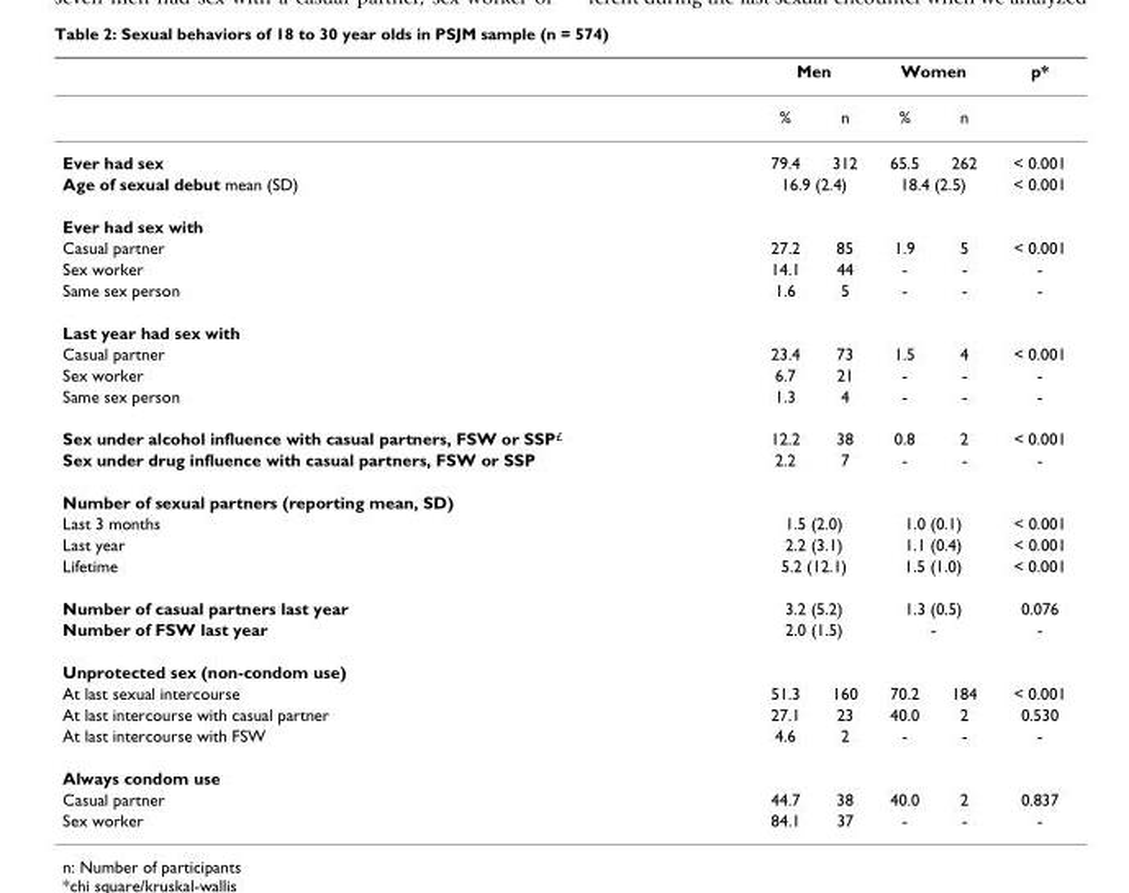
<table><thead><tr><td rowspan="2"></td><td colspan="2">Men</td><td colspan="2">Women</td><td rowspan="2">p*</td></tr><tr><td>%</td><td>n</td><td>%</td><td>n</td></tr></thead><tbody><tr><td>Ever had sex</td><td>79.4</td><td>312</td><td>65.5</td><td>262</td><td>&lt; 0.001</td></tr><tr><td>Age of sexual debut mean (SD)</td><td colspan="2">16.9 (2.4)</td><td colspan="2">18.4 (2.5)</td><td>&lt; 0.001</td></tr><tr><td colspan="6">Ever had sex with</td></tr><tr><td>Casual partner</td><td>27.2</td><td>85</td><td>1.9</td><td>5</td><td>&lt; 0.001</td></tr><tr><td>Sex worker</td><td>14.1</td><td>44</td><td>-</td><td>-</td><td>-</td></tr><tr><td>Same sex person</td><td>1.6</td><td>5</td><td>-</td><td>-</td><td>-</td></tr><tr><td colspan="6">Last year had sex with</td></tr><tr><td>Casual partner</td><td>23.4</td><td>73</td><td>1.5</td><td>4</td><td>&lt; 0.001</td></tr><tr><td>Sex worker</td><td>6.7</td><td>21</td><td>-</td><td>-</td><td>-</td></tr><tr><td>Same sex person</td><td>1.3</td><td>4</td><td>-</td><td>-</td><td>-</td></tr><tr><td>Sex under alcohol influence with casual partners, FSW or SSP<sup>£</sup></td><td>12.2</td><td>38</td><td>0.8</td><td>2</td><td>&lt; 0.001</td></tr><tr><td>Sex under drug influence with casual partners, FSW or SSP</td><td>2.2</td><td>7</td><td>-</td><td>-</td><td>-</td></tr><tr><td colspan="6">Number of sexual partners (reporting mean, SD)</td></tr><tr><td>Last 3 months</td><td colspan="2">1.5 (2.0)</td><td colspan="2">1.0 (0.1)</td><td>&lt; 0.001</td></tr><tr><td>Last year</td><td colspan="2">2.2 (3.1)</td><td colspan="2">1.1 (0.4)</td><td>&lt; 0.001</td></tr><tr><td>Lifetime</td><td colspan="2">5.2 (12.1)</td><td colspan="2">1.5 (1.0)</td><td>&lt; 0.001</td></tr><tr><td>Number of casual partners last year</td><td colspan="2">3.2 (5.2)</td><td colspan="2">1.3 (0.5)</td><td>0.076</td></tr><tr><td>Number of FSW last year</td><td colspan="2">2.0 (1.5)</td><td colspan="2">-</td><td>-</td></tr><tr><td colspan="6">Unprotected sex (non-condom use)</td></tr><tr><td>At last sexual intercourse</td><td>51.3</td><td>160</td><td>70.2</td><td>184</td><td>&lt; 0.001</td></tr><tr><td>At last intercourse with casual partner</td><td>27.1</td><td>23</td><td>40.0</td><td>2</td><td>0.530</td></tr><tr><td>At last intercourse with FSW</td><td>4.6</td><td>2</td><td>-</td><td>-</td><td>-</td></tr><tr><td colspan="6">Always condom use</td></tr><tr><td>Casual partner</td><td>44.7</td><td>38</td><td>40.0</td><td>2</td><td>0.837</td></tr><tr><td>Sex worker</td><td>84.1</td><td>37</td><td>-</td><td>-</td><td>-</td></tr></tbody></table>